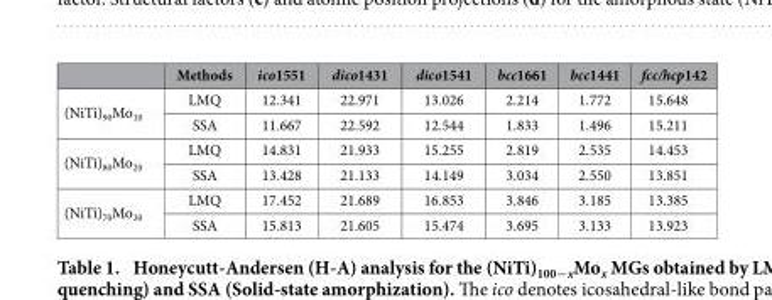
<table><thead><tr><td></td><td>Methods</td><td>ico1551</td><td>dico1431</td><td>dico1541</td><td>bcc1661</td><td>bcc1441</td><td>fcc/hcp142</td></tr></thead><tbody><tr><td rowspan="2">(NiTi)<sub>90</sub>Mo<sub>10</sub></td><td>LMQ</td><td>12.341</td><td>22.971</td><td>13.026</td><td>2.214</td><td>1.772</td><td>15.648</td></tr><tr><td>SSA</td><td>11.667</td><td>22.592</td><td>12.544</td><td>1.833</td><td>1.496</td><td>15.211</td></tr><tr><td rowspan="2">(NiTi)<sub>80</sub>Mo<sub>20</sub></td><td>LMQ</td><td>14.831</td><td>21.933</td><td>15.255</td><td>2.819</td><td>2.535</td><td>14.453</td></tr><tr><td>SSA</td><td>13.428</td><td>21.133</td><td>14.149</td><td>3.034</td><td>2.550</td><td>13.851</td></tr><tr><td rowspan="2">(NiTi)<sub>70</sub>Mo<sub>30</sub></td><td>LMQ</td><td>17.452</td><td>21.689</td><td>16.853</td><td>3.846</td><td>3.185</td><td>13.385</td></tr><tr><td>SSA</td><td>15.813</td><td>21.605</td><td>15.474</td><td>3.695</td><td>3.133</td><td>13.923</td></tr></tbody></table>